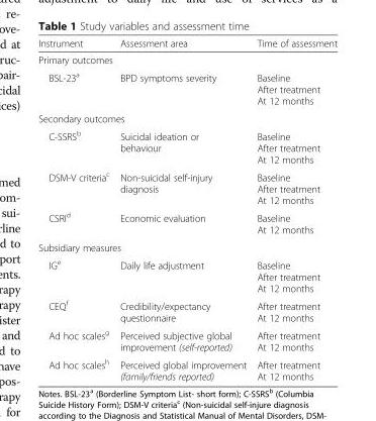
<table><thead><tr><td>Instrument</td><td>Assessment area</td><td>Time of assessment</td></tr></thead><tbody><tr><td colspan="3">Primary outcomes</td></tr><tr><td>BSL-23<sup>a</sup></td><td>BPD symptoms severity</td><td>Baseline After treatment At 12 months</td></tr><tr><td colspan="3">Secondary outcomes</td></tr><tr><td>C-SSRS<sup>b</sup></td><td>Suicidal ideation or behaviour</td><td>Baseline After treatment At 12 months</td></tr><tr><td>DSM-V criteria<sup>c</sup></td><td>Non-suicidal self-injury diagnosis</td><td>Baseline After treatment At 12 months</td></tr><tr><td>CSRI<sup>d</sup></td><td>Economic evaluation</td><td>Baseline At 12 months</td></tr><tr><td colspan="3">Subsidiary measures</td></tr><tr><td>IG<sup>e</sup></td><td>Daily life adjustment</td><td>Baseline After treatment At 12 months</td></tr><tr><td>CEQ<sup>f</sup></td><td>Credibility/expectancy questionnaire</td><td>After treatment At 12 months</td></tr><tr><td>Ad hoc scales<sup>g</sup></td><td>Perceived subjective global improvement (self-reported)</td><td>After treatment At 12 months</td></tr><tr><td>Ad hoc scales<sup>h</sup></td><td>Perceived global improvement (family/friends reported)</td><td>After treatment At 12 months</td></tr></tbody></table>